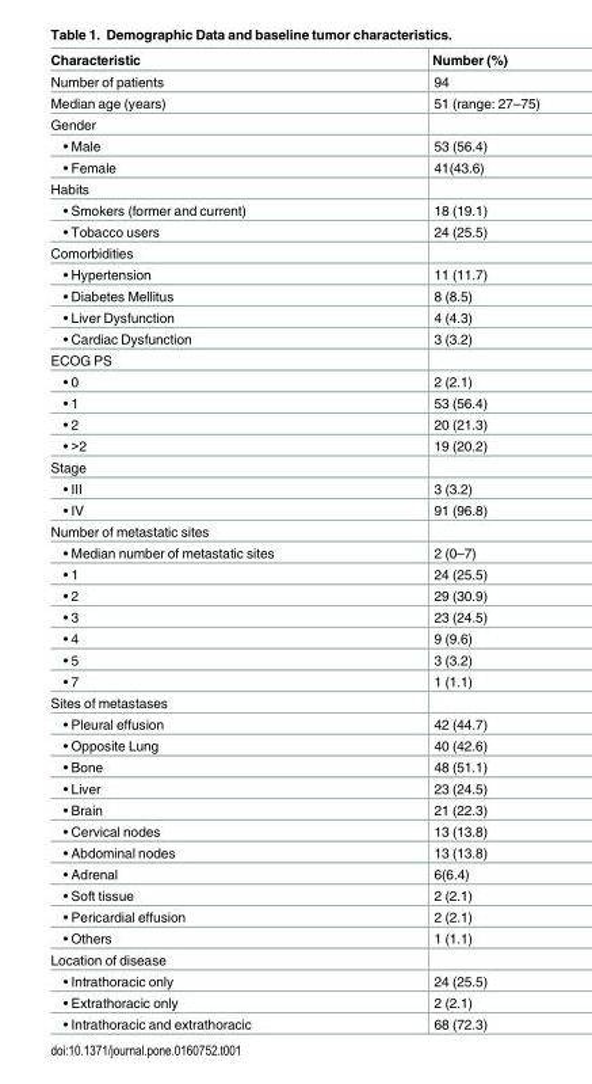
<table><thead><tr><td>Characteristic</td><td>Number (%)</td></tr></thead><tbody><tr><td>Number of patients</td><td>94</td></tr><tr><td>Median age (years)</td><td>51 (range: 27–75)</td></tr><tr><td colspan="2">Gender</td></tr><tr><td>• Male</td><td>53 (56.4)</td></tr><tr><td>• Female</td><td>41(43.6)</td></tr><tr><td colspan="2">Habits</td></tr><tr><td>• Smokers (former and current)</td><td>18 (19.1)</td></tr><tr><td>• Tobacco users</td><td>24 (25.5)</td></tr><tr><td colspan="2">Comorbidities</td></tr><tr><td>• Hypertension</td><td>11 (11.7)</td></tr><tr><td>• Diabetes Mellitus</td><td>8 (8.5)</td></tr><tr><td>• Liver Dysfunction</td><td>4 (4.3)</td></tr><tr><td>• Cardiac Dysfunction</td><td>3 (3.2)</td></tr><tr><td colspan="2">ECOG PS</td></tr><tr><td>• 0</td><td>2 (2.1)</td></tr><tr><td>• 1</td><td>53 (56.4)</td></tr><tr><td>• 2</td><td>20 (21.3)</td></tr><tr><td>• &gt;2</td><td>19 (20.2)</td></tr><tr><td colspan="2">Stage</td></tr><tr><td>• III</td><td>3 (3.2)</td></tr><tr><td>• IV</td><td>91 (96.8)</td></tr><tr><td colspan="2">Number of metastatic sites</td></tr><tr><td>• Median number of metastatic sites</td><td>2 (0–7)</td></tr><tr><td>• 1</td><td>24 (25.5)</td></tr><tr><td>• 2</td><td>29 (30.9)</td></tr><tr><td>• 3</td><td>23 (24.5)</td></tr><tr><td>• 4</td><td>9 (9.6)</td></tr><tr><td>• 5</td><td>3 (3.2)</td></tr><tr><td>• 7</td><td>1 (1.1)</td></tr><tr><td colspan="2">Sites of metastases</td></tr><tr><td>• Pleural effusion</td><td>42 (44.7)</td></tr><tr><td>• Opposite Lung</td><td>40 (42.6)</td></tr><tr><td>• Bone</td><td>48 (51.1)</td></tr><tr><td>• Liver</td><td>23 (24.5)</td></tr><tr><td>• Brain</td><td>21 (22.3)</td></tr><tr><td>• Cervical nodes</td><td>13 (13.8)</td></tr><tr><td>• Abdominal nodes</td><td>13 (13.8)</td></tr><tr><td>• Adrenal</td><td>6(6.4)</td></tr><tr><td>• Soft tissue</td><td>2 (2.1)</td></tr><tr><td>• Pericardial effusion</td><td>2 (2.1)</td></tr><tr><td>• Others</td><td>1 (1.1)</td></tr><tr><td colspan="2">Location of disease</td></tr><tr><td>• Intrathoracic only</td><td>24 (25.5)</td></tr><tr><td>• Extrathoracic only</td><td>2 (2.1)</td></tr><tr><td>• Intrathoracic and extrathoracic</td><td>68 (72.3)</td></tr></tbody></table>